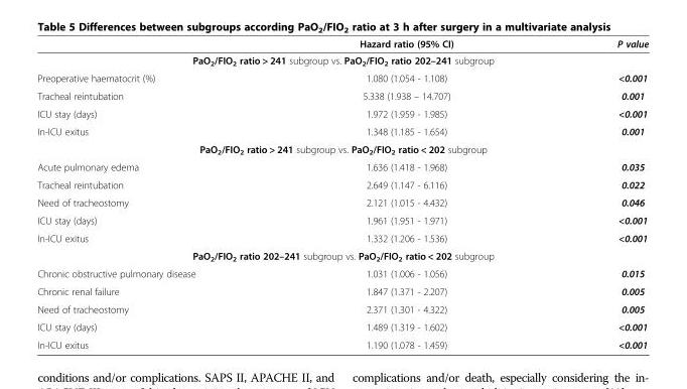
<table><thead><tr><td></td><td>Hazard ratio (95% CI)</td><td>P value</td></tr></thead><tbody><tr><td colspan="3">PaO<sub>2</sub>/FIO<sub>2</sub> ratio &gt; 241 subgroup vs. PaO<sub>2</sub>/FIO<sub>2</sub> ratio 202–241 subgroup</td></tr><tr><td>Preoperative haematocrit (%)</td><td>1.080 (1.054 - 1.108)</td><td>&lt;0.001</td></tr><tr><td>Tracheal reintubation</td><td>5.338 (1.938 – 14.707)</td><td>0.001</td></tr><tr><td>ICU stay (days)</td><td>1.972 (1.959 - 1.985)</td><td>&lt;0.001</td></tr><tr><td>In-ICU exitus</td><td>1.348 (1.185 - 1.654)</td><td>0.001</td></tr><tr><td colspan="3">PaO<sub>2</sub>/FIO<sub>2</sub> ratio &gt; 241 subgroup vs. PaO<sub>2</sub>/FIO<sub>2</sub> ratio &lt; 202 subgroup</td></tr><tr><td>Acute pulmonary edema</td><td>1.636 (1.418 - 1.968)</td><td>0.035</td></tr><tr><td>Tracheal reintubation</td><td>2.649 (1.147 - 6.116)</td><td>0.022</td></tr><tr><td>Need of tracheostomy</td><td>2.121 (1.015 - 4.432)</td><td>0.046</td></tr><tr><td>ICU stay (days)</td><td>1.961 (1.951 - 1.971)</td><td>&lt;0.001</td></tr><tr><td>In-ICU exitus</td><td>1.332 (1.206 - 1.536)</td><td>&lt;0.001</td></tr><tr><td colspan="3">PaO<sub>2</sub>/FIO<sub>2</sub> ratio 202–241 subgroup vs. PaO<sub>2</sub>/FIO<sub>2</sub> ratio &lt; 202 subgroup</td></tr><tr><td>Chronic obstructive pulmonary disease</td><td>1.031 (1.006 - 1.056)</td><td>0.015</td></tr><tr><td>Chronic renal failure</td><td>1.847 (1.371 - 2.207)</td><td>0.005</td></tr><tr><td>Need of tracheostomy</td><td>2.371 (1.301 - 4.322)</td><td>0.005</td></tr><tr><td>ICU stay (days)</td><td>1.489 (1.319 - 1.602)</td><td>&lt;0.001</td></tr><tr><td>In-ICU exitus</td><td>1.190 (1.078 - 1.459)</td><td>&lt;0.001</td></tr></tbody></table>